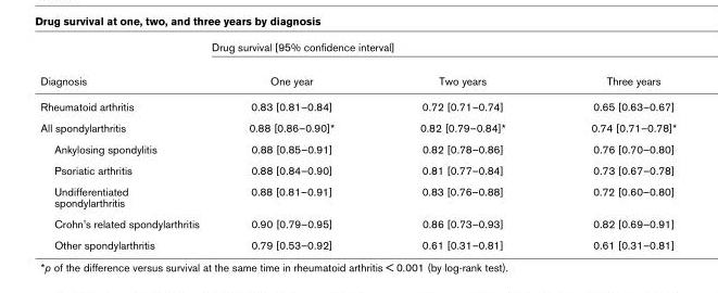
<table><thead><tr><td rowspan="2">Diagnosis</td><td colspan="3">Drug survival [95% confidence interval]</td></tr><tr><td>One year</td><td>Two years</td><td>Three years</td></tr></thead><tbody><tr><td>Rheumatoid arthritis</td><td>0.83 [0.81–0.84]</td><td>0.72 [0.71–0.74]</td><td>0.65 [0.63–0.67]</td></tr><tr><td>All spondylarthritis</td><td>0.88 [0.86–0.90]*</td><td>0.82 [0.79–0.84]*</td><td>0.74 [0.71–0.78]*</td></tr><tr><td>Ankylosing spondylitis</td><td>0.88 [0.85–0.91]</td><td>0.82 [0.78–0.86]</td><td>0.76 [0.70–0.80]</td></tr><tr><td>Psoriatic arthritis</td><td>0.88 [0.84–0.90]</td><td>0.81 [0.77–0.84]</td><td>0.73 [0.67–0.78]</td></tr><tr><td>Undifferentiated spondylarthritis</td><td>0.88 [0.81–0.91]</td><td>0.83 [0.76–0.88]</td><td>0.72 [0.60–0.80]</td></tr><tr><td>Crohn&#x27;s related spondylarthritis</td><td>0.90 [0.79–0.95]</td><td>0.86 [0.73–0.93]</td><td>0.82 [0.69–0.91]</td></tr><tr><td>Other spondylarthritis</td><td>0.79 [0.53–0.92]</td><td>0.61 [0.31–0.81]</td><td>0.61 [0.31–0.81]</td></tr></tbody></table>